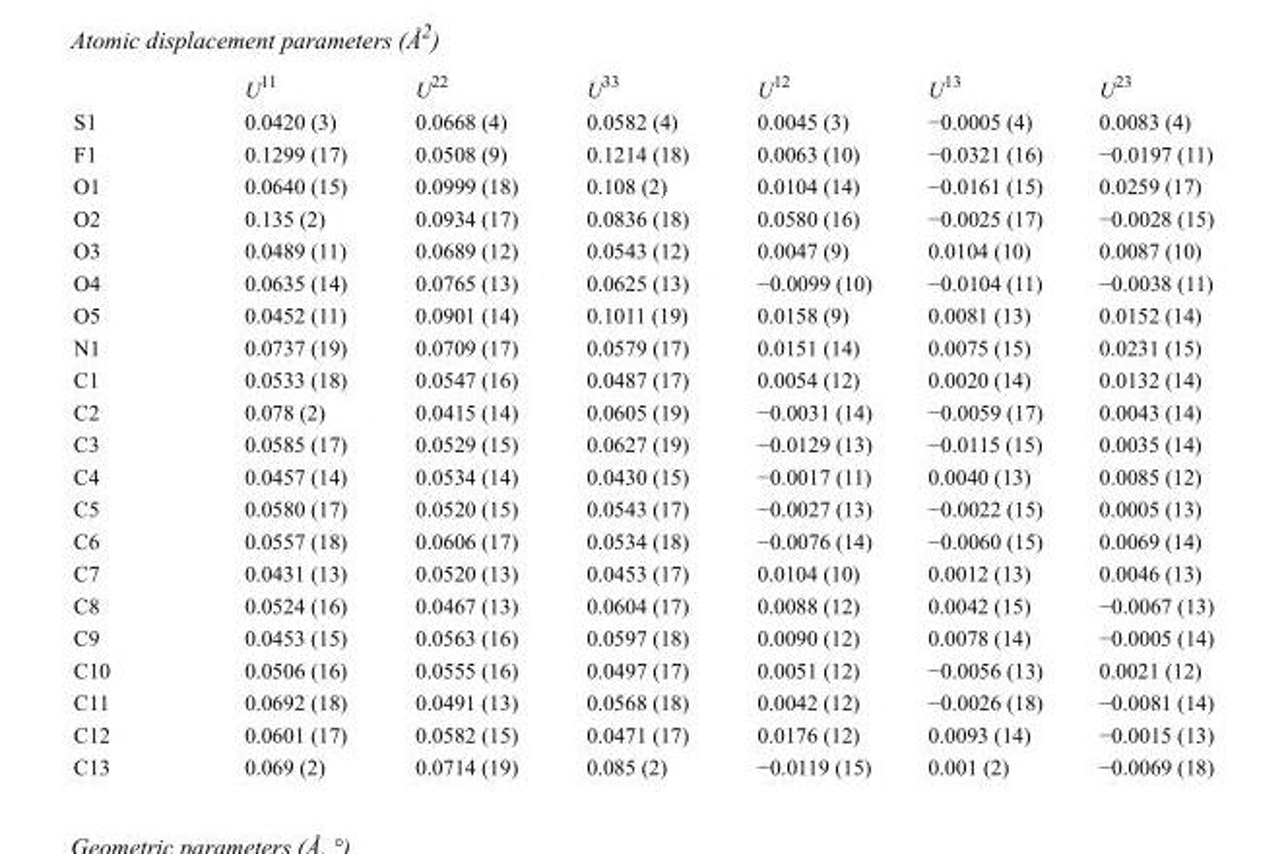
<table><thead><tr><td></td><td>U<sup>11</sup></td><td>U<sup>22</sup></td><td>U<sup>33</sup></td><td>U<sup>12</sup></td><td>U<sup>13</sup></td><td>U<sup>23</sup></td></tr></thead><tbody><tr><td>S1</td><td>0.0420 (3)</td><td>0.0668 (4)</td><td>0.0582 (4)</td><td>0.0045 (3)</td><td>−0.0005 (4)</td><td>0.0083 (4)</td></tr><tr><td>F1</td><td>0.1299 (17)</td><td>0.0508 (9)</td><td>0.1214 (18)</td><td>0.0063 (10)</td><td>−0.0321 (16)</td><td>−0.0197 (11)</td></tr><tr><td>O1</td><td>0.0640 (15)</td><td>0.0999 (18)</td><td>0.108 (2)</td><td>0.0104 (14)</td><td>−0.0161 (15)</td><td>0.0259 (17)</td></tr><tr><td>O2</td><td>0.135 (2)</td><td>0.0934 (17)</td><td>0.0836 (18)</td><td>0.0580 (16)</td><td>−0.0025 (17)</td><td>−0.0028 (15)</td></tr><tr><td>O3</td><td>0.0489 (11)</td><td>0.0689 (12)</td><td>0.0543 (12)</td><td>0.0047 (9)</td><td>0.0104 (10)</td><td>0.0087 (10)</td></tr><tr><td>O4</td><td>0.0635 (14)</td><td>0.0765 (13)</td><td>0.0625 (13)</td><td>−0.0099 (10)</td><td>−0.0104 (11)</td><td>−0.0038 (11)</td></tr><tr><td>O5</td><td>0.0452 (11)</td><td>0.0901 (14)</td><td>0.1011 (19)</td><td>0.0158 (9)</td><td>0.0081 (13)</td><td>0.0152 (14)</td></tr><tr><td>N1</td><td>0.0737 (19)</td><td>0.0709 (17)</td><td>0.0579 (17)</td><td>0.0151 (14)</td><td>0.0075 (15)</td><td>0.0231 (15)</td></tr><tr><td>C1</td><td>0.0533 (18)</td><td>0.0547 (16)</td><td>0.0487 (17)</td><td>0.0054 (12)</td><td>0.0020 (14)</td><td>0.0132 (14)</td></tr><tr><td>C2</td><td>0.078 (2)</td><td>0.0415 (14)</td><td>0.0605 (19)</td><td>−0.0031 (14)</td><td>−0.0059 (17)</td><td>0.0043 (14)</td></tr><tr><td>C3</td><td>0.0585 (17)</td><td>0.0529 (15)</td><td>0.0627 (19)</td><td>−0.0129 (13)</td><td>−0.0115 (15)</td><td>0.0035 (14)</td></tr><tr><td>C4</td><td>0.0457 (14)</td><td>0.0534 (14)</td><td>0.0430 (15)</td><td>−0.0017 (11)</td><td>0.0040 (13)</td><td>0.0085 (12)</td></tr><tr><td>C5</td><td>0.0580 (17)</td><td>0.0520 (15)</td><td>0.0543 (17)</td><td>−0.0027 (13)</td><td>−0.0022 (15)</td><td>0.0005 (13)</td></tr><tr><td>C6</td><td>0.0557 (18)</td><td>0.0606 (17)</td><td>0.0534 (18)</td><td>−0.0076 (14)</td><td>−0.0060 (15)</td><td>0.0069 (14)</td></tr><tr><td>C7</td><td>0.0431 (13)</td><td>0.0520 (13)</td><td>0.0453 (17)</td><td>0.0104 (10)</td><td>0.0012 (13)</td><td>0.0046 (13)</td></tr><tr><td>C8</td><td>0.0524 (16)</td><td>0.0467 (13)</td><td>0.0604 (17)</td><td>0.0088 (12)</td><td>0.0042 (15)</td><td>−0.0067 (13)</td></tr><tr><td>C9</td><td>0.0453 (15)</td><td>0.0563 (16)</td><td>0.0597 (18)</td><td>0.0090 (12)</td><td>0.0078 (14)</td><td>−0.0005 (14)</td></tr><tr><td>C10</td><td>0.0506 (16)</td><td>0.0555 (16)</td><td>0.0497 (17)</td><td>0.0051 (12)</td><td>−0.0056 (13)</td><td>0.0021 (12)</td></tr><tr><td>C11</td><td>0.0692 (18)</td><td>0.0491 (13)</td><td>0.0568 (18)</td><td>0.0042 (12)</td><td>−0.0026 (18)</td><td>−0.0081 (14)</td></tr><tr><td>C12</td><td>0.0601 (17)</td><td>0.0582 (15)</td><td>0.0471 (17)</td><td>0.0176 (12)</td><td>0.0093 (14)</td><td>−0.0015 (13)</td></tr><tr><td>C13</td><td>0.069 (2)</td><td>0.0714 (19)</td><td>0.085 (2)</td><td>−0.0119 (15)</td><td>0.001 (2)</td><td>−0.0069 (18)</td></tr></tbody></table>